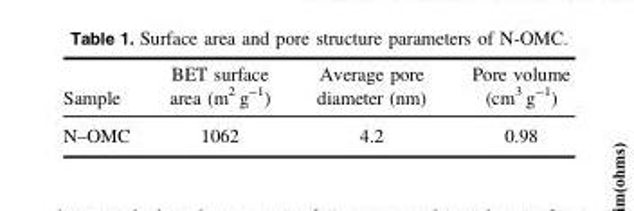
<table><thead><tr><td>Sample</td><td>BET surface area (m<sup>2</sup> g<sup>−1</sup>)</td><td>Average pore diameter (nm)</td><td>Pore volume (cm<sup>3</sup> g<sup>−1</sup>)</td></tr></thead><tbody><tr><td>N–OMC</td><td>1062</td><td>4.2</td><td>0.98</td></tr></tbody></table>